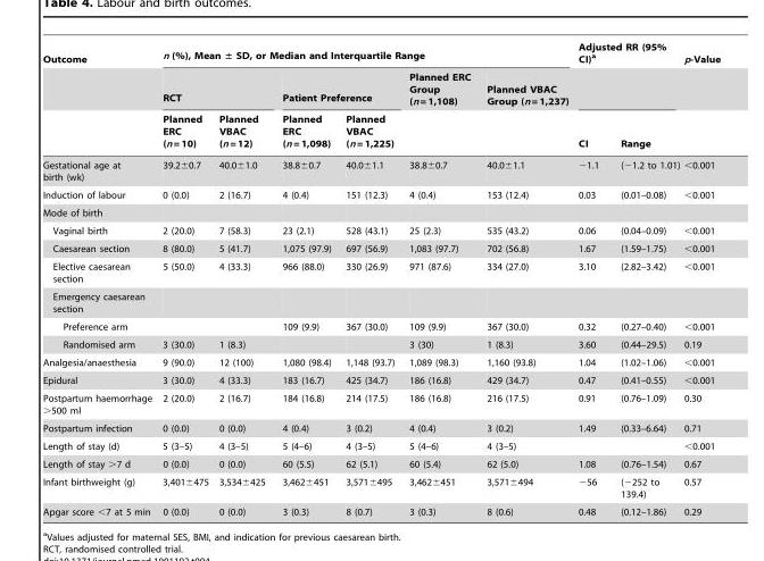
<table><thead><tr><td rowspan="3">Outcome</td><td colspan="6">n (%), Mean ± SD, or Median and Interquartile Range</td><td colspan="2">Adjusted RR (95% CI)<sup>a</sup></td><td rowspan="3">p-Value</td></tr><tr><td colspan="2">RCT</td><td colspan="2">Patient Preference</td><td rowspan="2">Planned ERC Group (n = 1,108)</td><td rowspan="2">Planned VBAC Group (n = 1,237)</td><td rowspan="2">CI</td><td rowspan="2">Range</td></tr><tr><td>Planned ERC (n = 10)</td><td>Planned VBAC (n = 12)</td><td>Planned ERC (n = 1,098)</td><td>Planned VBAC (n = 1,225)</td></tr></thead><tbody><tr><td>Gestational age at birth (wk)</td><td>39.2±0.7</td><td>40.0±1.0</td><td>38.8±0.7</td><td>40.0±1.1</td><td>38.8±0.7</td><td>40.0±1.1</td><td>−1.1</td><td>(−1.2 to 1.01)</td><td>&lt;0.001</td></tr><tr><td>Induction of labour</td><td>0 (0.0)</td><td>2 (16.7)</td><td>4 (0.4)</td><td>151 (12.3)</td><td>4 (0.4)</td><td>153 (12.4)</td><td>0.03</td><td>(0.01–0.08)</td><td>&lt;0.001</td></tr><tr><td colspan="10">Mode of birth</td></tr><tr><td>Vaginal birth</td><td>2 (20.0)</td><td>7 (58.3)</td><td>23 (2.1)</td><td>528 (43.1)</td><td>25 (2.3)</td><td>535 (43.2)</td><td>0.06</td><td>(0.04–0.09)</td><td>&lt;0.001</td></tr><tr><td>Caesarean section</td><td>8 (80.0)</td><td>5 (41.7)</td><td>1,075 (97.9)</td><td>697 (56.9)</td><td>1,083 (97.7)</td><td>702 (56.8)</td><td>1.67</td><td>(1.59–1.75)</td><td>&lt;0.001</td></tr><tr><td>Elective caesarean section</td><td>5 (50.0)</td><td>4 (33.3)</td><td>966 (88.0)</td><td>330 (26.9)</td><td>971 (87.6)</td><td>334 (27.0)</td><td>3.10</td><td>(2.82–3.42)</td><td>&lt;0.001</td></tr><tr><td colspan="10">Emergency caesarean section</td></tr><tr><td>Preference arm</td><td></td><td></td><td>109 (9.9)</td><td>367 (30.0)</td><td>109 (9.9)</td><td>367 (30.0)</td><td>0.32</td><td>(0.27–0.40)</td><td>&lt;0.001</td></tr><tr><td>Randomised arm</td><td>3 (30.0)</td><td>1 (8.3)</td><td></td><td></td><td>3 (30)</td><td>1 (8.3)</td><td>3.60</td><td>(0.44–29.5)</td><td>0.19</td></tr><tr><td>Analgesia/anaesthesia</td><td>9 (90.0)</td><td>12 (100)</td><td>1,080 (98.4)</td><td>1,148 (93.7)</td><td>1,089 (98.3)</td><td>1,160 (93.8)</td><td>1.04</td><td>(1.02–1.06)</td><td>&lt;0.001</td></tr><tr><td>Epidural</td><td>3 (30.0)</td><td>4 (33.3)</td><td>183 (16.7)</td><td>425 (34.7)</td><td>186 (16.8)</td><td>429 (34.7)</td><td>0.47</td><td>(0.41–0.55)</td><td>&lt;0.001</td></tr><tr><td>Postpartum haemorrhage &gt;500 ml</td><td>2 (20.0)</td><td>2 (16.7)</td><td>184 (16.8)</td><td>214 (17.5)</td><td>186 (16.8)</td><td>216 (17.5)</td><td>0.91</td><td>(0.76–1.09)</td><td>0.30</td></tr><tr><td>Postpartum infection</td><td>0 (0.0)</td><td>0 (0.0)</td><td>4 (0.4)</td><td>3 (0.2)</td><td>4 (0.4)</td><td>3 (0.2)</td><td>1.49</td><td>(0.33–6.64)</td><td>0.71</td></tr><tr><td>Length of stay (d)</td><td>5 (3–5)</td><td>4 (3–5)</td><td>5 (4–6)</td><td>4 (3–5)</td><td>5 (4–6)</td><td>4 (3–5)</td><td></td><td></td><td>&lt;0.001</td></tr><tr><td>Length of stay &gt;7 d</td><td>0 (0.0)</td><td>0 (0.0)</td><td>60 (5.5)</td><td>62 (5.1)</td><td>60 (5.4)</td><td>62 (5.0)</td><td>1.08</td><td>(0.76–1.54)</td><td>0.67</td></tr><tr><td>Infant birthweight (g)</td><td>3,401±475</td><td>3,534±425</td><td>3,462±451</td><td>3,571±495</td><td>3,462±451</td><td>3,571±494</td><td>−56</td><td>(−252 to 139.4)</td><td>0.57</td></tr><tr><td>Apgar score &lt;7 at 5 min</td><td>0 (0.0)</td><td>0 (0.0)</td><td>3 (0.3)</td><td>8 (0.7)</td><td>3 (0.3)</td><td>8 (0.6)</td><td>0.48</td><td>(0.12–1.86)</td><td>0.29</td></tr></tbody></table>